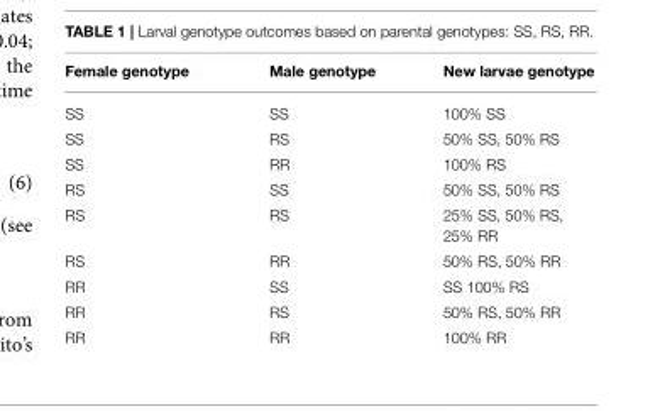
<table><thead><tr><td>Female genotype</td><td>Male genotype</td><td>New larvae genotype</td></tr></thead><tbody><tr><td>SS</td><td>SS</td><td>100% SS</td></tr><tr><td>SS</td><td>RS</td><td>50% SS, 50% RS</td></tr><tr><td>SS</td><td>RR</td><td>100% RS</td></tr><tr><td>RS</td><td>SS</td><td>50% SS, 50% RS</td></tr><tr><td>RS</td><td>RS</td><td>25% SS, 50% RS, 25% RR</td></tr><tr><td>RS</td><td>RR</td><td>50% RS, 50% RR</td></tr><tr><td>RR</td><td>SS</td><td>SS 100% RS</td></tr><tr><td>RR</td><td>RS</td><td>50% RS, 50% RR</td></tr><tr><td>RR</td><td>RR</td><td>100% RR</td></tr></tbody></table>